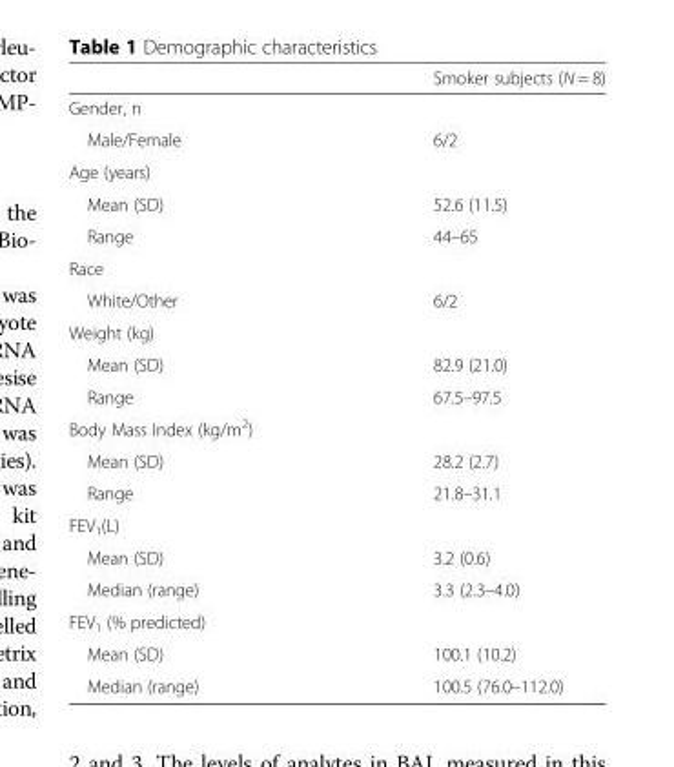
<table><thead><tr><td></td><td>Smoker subjects (N = 8)</td></tr></thead><tbody><tr><td colspan="2">Gender, n</td></tr><tr><td>Male/Female</td><td>6/2</td></tr><tr><td colspan="2">Age (years)</td></tr><tr><td>Mean (SD)</td><td>52.6 (11.5)</td></tr><tr><td>Range</td><td>44–65</td></tr><tr><td colspan="2">Race</td></tr><tr><td>White/Other</td><td>6/2</td></tr><tr><td colspan="2">Weight (kg)</td></tr><tr><td>Mean (SD)</td><td>82.9 (21.0)</td></tr><tr><td>Range</td><td>67.5–97.5</td></tr><tr><td colspan="2">Body Mass Index (kg/m<sup>2</sup>)</td></tr><tr><td>Mean (SD)</td><td>28.2 (2.7)</td></tr><tr><td>Range</td><td>21.8–31.1</td></tr><tr><td colspan="2">FEV<sub>1</sub>(L)</td></tr><tr><td>Mean (SD)</td><td>3.2 (0.6)</td></tr><tr><td>Median (range)</td><td>3.3 (2.3–4.0)</td></tr><tr><td colspan="2">FEV<sub>1</sub> (% predicted)</td></tr><tr><td>Mean (SD)</td><td>100.1 (10.2)</td></tr><tr><td>Median (range)</td><td>100.5 (76.0–112.0)</td></tr></tbody></table>